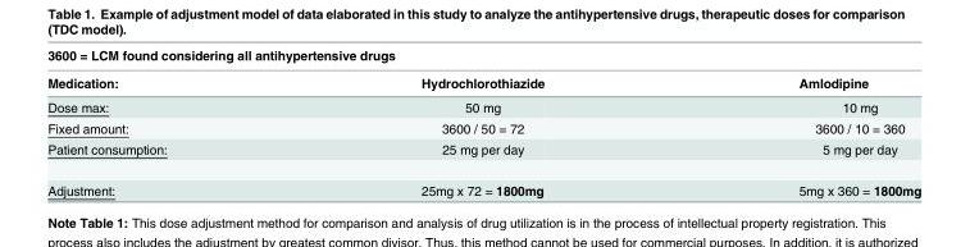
<table><thead><tr><td colspan="3">3600 = LCM found considering all antihypertensive drugs</td></tr><tr><td>Medication:</td><td>Hydrochlorothiazide</td><td>Amlodipine</td></tr></thead><tbody><tr><td>Dose max:</td><td>50 mg</td><td>10 mg</td></tr><tr><td>Fixed amount:</td><td>3600 / 50 = 72</td><td>3600 / 10 = 360</td></tr><tr><td>Patient consumption:</td><td>25 mg per day</td><td>5 mg per day</td></tr><tr><td>Adjustment:</td><td>25mg x 72 = 1800mg</td><td>5mg x 360 = 1800mg</td></tr></tbody></table>